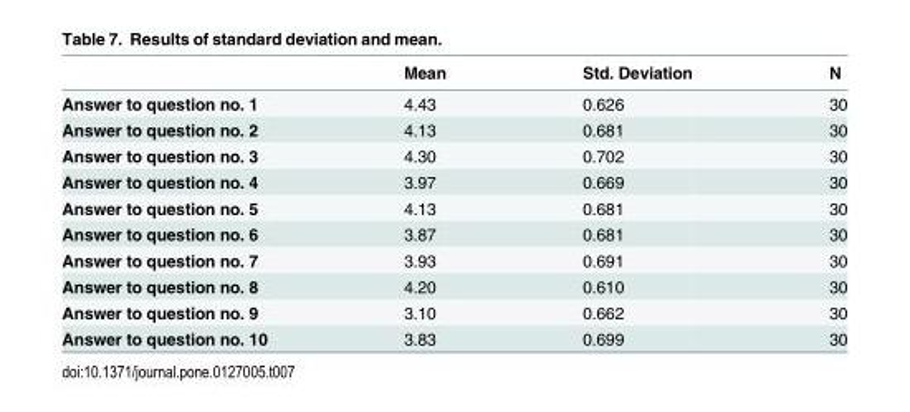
<table><thead><tr><td></td><td>Mean</td><td>Std. Deviation</td><td>N</td></tr></thead><tbody><tr><td>Answer to question no. 1</td><td>4.43</td><td>0.626</td><td>30</td></tr><tr><td>Answer to question no. 2</td><td>4.13</td><td>0.681</td><td>30</td></tr><tr><td>Answer to question no. 3</td><td>4.30</td><td>0.702</td><td>30</td></tr><tr><td>Answer to question no. 4</td><td>3.97</td><td>0.669</td><td>30</td></tr><tr><td>Answer to question no. 5</td><td>4.13</td><td>0.681</td><td>30</td></tr><tr><td>Answer to question no. 6</td><td>3.87</td><td>0.681</td><td>30</td></tr><tr><td>Answer to question no. 7</td><td>3.93</td><td>0.691</td><td>30</td></tr><tr><td>Answer to question no. 8</td><td>4.20</td><td>0.610</td><td>30</td></tr><tr><td>Answer to question no. 9</td><td>3.10</td><td>0.662</td><td>30</td></tr><tr><td>Answer to question no. 10</td><td>3.83</td><td>0.699</td><td>30</td></tr></tbody></table>